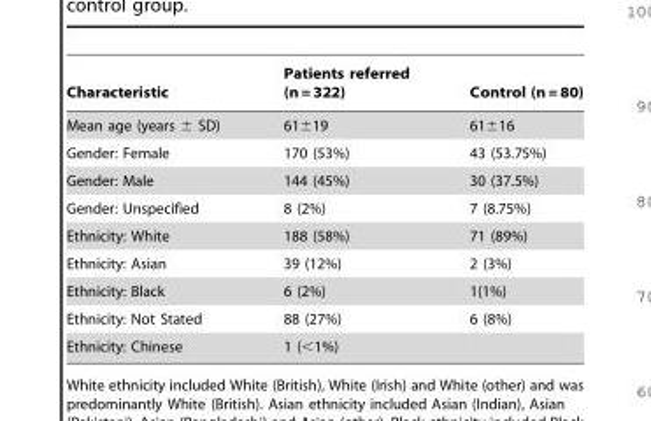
<table><thead><tr><td>Characteristic</td><td>Patients referred (n = 322)</td><td>Control (n = 80)</td></tr></thead><tbody><tr><td>Mean age (years ± SD)</td><td>61±19</td><td>61±16</td></tr><tr><td>Gender: Female</td><td>170 (53%)</td><td>43 (53.75%)</td></tr><tr><td>Gender: Male</td><td>144 (45%)</td><td>30 (37.5%)</td></tr><tr><td>Gender: Unspecified</td><td>8 (2%)</td><td>7 (8.75%)</td></tr><tr><td>Ethnicity: White</td><td>188 (58%)</td><td>71 (89%)</td></tr><tr><td>Ethnicity: Asian</td><td>39 (12%)</td><td>2 (3%)</td></tr><tr><td>Ethnicity: Black</td><td>6 (2%)</td><td>1(1%)</td></tr><tr><td>Ethnicity: Not Stated</td><td>88 (27%)</td><td>6 (8%)</td></tr><tr><td>Ethnicity: Chinese</td><td>1 (&lt;1%)</td><td></td></tr></tbody></table>